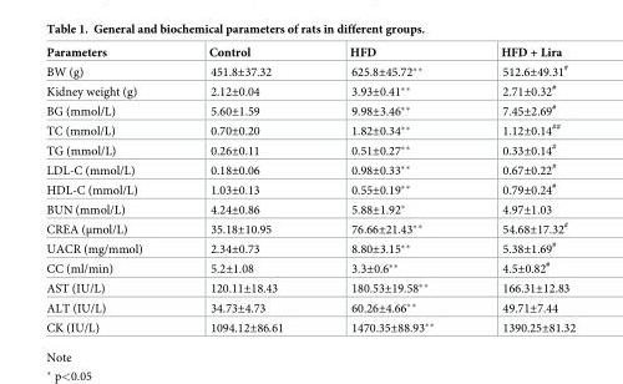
<table><thead><tr><td>Parameters</td><td>Control</td><td>HFD</td><td>HFD + Lira</td></tr></thead><tbody><tr><td>BW (g)</td><td>451.8±37.32</td><td>625.8±45.72**</td><td>512.6±49.31<sup>#</sup></td></tr><tr><td>Kidney weight (g)</td><td>2.12±0.04</td><td>3.93±0.41**</td><td>2.71±0.32<sup>#</sup></td></tr><tr><td>BG (mmol/L)</td><td>5.60±1.59</td><td>9.98±3.46**</td><td>7.45±2.69<sup>#</sup></td></tr><tr><td>TC (mmol/L)</td><td>0.70±0.20</td><td>1.82±0.34**</td><td>1.12±0.14<sup>##</sup></td></tr><tr><td>TG (mmol/L)</td><td>0.26±0.11</td><td>0.51±0.27**</td><td>0.33±0.14<sup>#</sup></td></tr><tr><td>LDL-C (mmol/L)</td><td>0.18±0.06</td><td>0.98±0.33**</td><td>0.67±0.22<sup>#</sup></td></tr><tr><td>HDL-C (mmol/L)</td><td>1.03±0.13</td><td>0.55±0.19**</td><td>0.79±0.24<sup>#</sup></td></tr><tr><td>BUN (mmol/L)</td><td>4.24±0.86</td><td>5.88±1.92*</td><td>4.97±1.03</td></tr><tr><td>CREA (μmol/L)</td><td>35.18±10.95</td><td>76.66±21.43**</td><td>54.68±17.32<sup>#</sup></td></tr><tr><td>UACR (mg/mmol)</td><td>2.34±0.73</td><td>8.80±3.15**</td><td>5.38±1.69<sup>#</sup></td></tr><tr><td>CC (ml/min)</td><td>5.2±1.08</td><td>3.3±0.6**</td><td>4.5±0.82<sup>#</sup></td></tr><tr><td>AST (IU/L)</td><td>120.11±18.43</td><td>180.53±19.58**</td><td>166.31±12.83</td></tr><tr><td>ALT (IU/L)</td><td>34.73±4.73</td><td>60.26±4.66**</td><td>49.71±7.44</td></tr><tr><td>CK (IU/L)</td><td>1094.12±86.61</td><td>1470.35±88.93**</td><td>1390.25±81.32</td></tr></tbody></table>